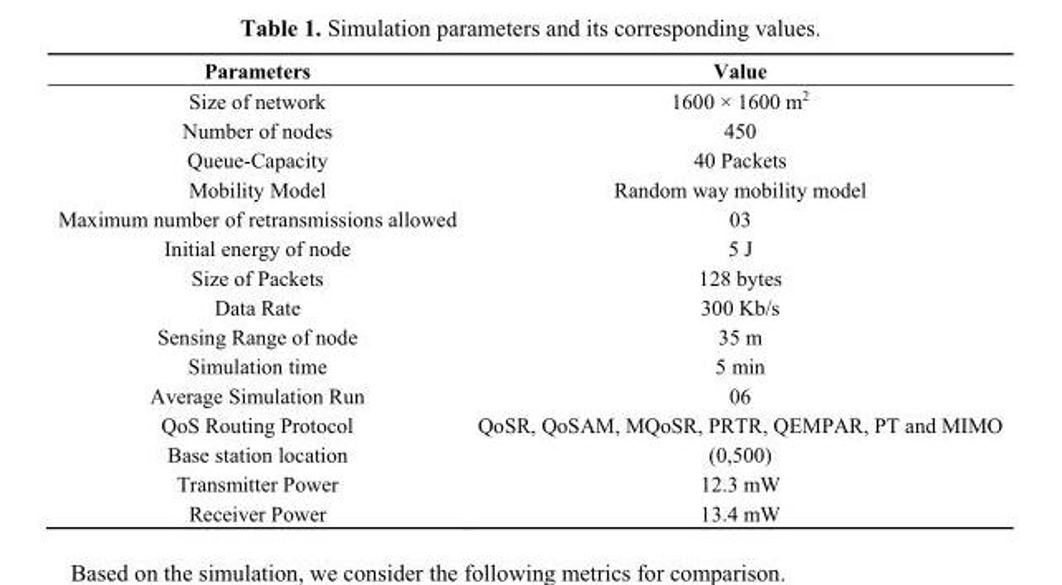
<table><thead><tr><td>Parameters</td><td>Value</td></tr></thead><tbody><tr><td>Size of network</td><td>1600 × 1600 m<sup>2</sup></td></tr><tr><td>Number of nodes</td><td>450</td></tr><tr><td>Queue-Capacity</td><td>40 Packets</td></tr><tr><td>Mobility Model</td><td>Random way mobility model</td></tr><tr><td>Maximum number of retransmissions allowed</td><td>03</td></tr><tr><td>Initial energy of node</td><td>5 J</td></tr><tr><td>Size of Packets</td><td>128 bytes</td></tr><tr><td>Data Rate</td><td>300 Kb/s</td></tr><tr><td>Sensing Range of node</td><td>35 m</td></tr><tr><td>Simulation time</td><td>5 min</td></tr><tr><td>Average Simulation Run</td><td>06</td></tr><tr><td>QoS Routing Protocol</td><td>QoSR, QoSAM, MQoSR, PRTR, QEMPAR, PT and MIMO</td></tr><tr><td>Base station location</td><td>(0,500)</td></tr><tr><td>Transmitter Power</td><td>12.3 mW</td></tr><tr><td>Receiver Power</td><td>13.4 mW</td></tr></tbody></table>